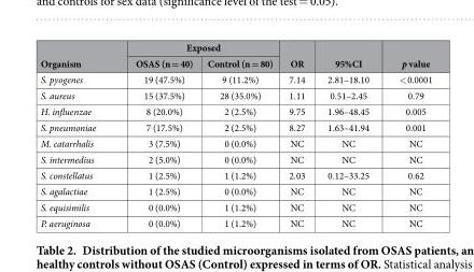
<table><thead><tr><td rowspan="2">Organism</td><td colspan="2">Exposed</td><td rowspan="2">OR</td><td rowspan="2">95%CI</td><td rowspan="2">p value</td></tr><tr><td>OSAS (n = 40)</td><td>Control (n = 80)</td></tr></thead><tbody><tr><td>S. pyogenes</td><td>19 (47.5%)</td><td>9 (11.2%)</td><td>7.14</td><td>2.81–18.10</td><td>&lt; 0.0001</td></tr><tr><td>S. aureus</td><td>15 (37.5%)</td><td>28 (35.0%)</td><td>1.11</td><td>0.51–2.45</td><td>0.79</td></tr><tr><td>H. influenzae</td><td>8 (20.0%)</td><td>2 (2.5%)</td><td>9.75</td><td>1.96–48.45</td><td>0.005</td></tr><tr><td>S. pneumoniae</td><td>7 (17.5%)</td><td>2 (2.5%)</td><td>8.27</td><td>1.63–41.94</td><td>0.001</td></tr><tr><td>M. catarrhalis</td><td>3 (7.5%)</td><td>0 (0.0%)</td><td>NC</td><td>NC</td><td>NC</td></tr><tr><td>S. intermedius</td><td>2 (5.0%)</td><td>0 (0.0%)</td><td>NC</td><td>NC</td><td>NC</td></tr><tr><td>S. constellatus</td><td>1 (2.5%)</td><td>1 (1.2%)</td><td>2.03</td><td>0.12–33.25</td><td>0.62</td></tr><tr><td>S. agalactiae</td><td>1 (2.5%)</td><td>0 (0.0%)</td><td>NC</td><td>NC</td><td>NC</td></tr><tr><td>S. equisimilis</td><td>0 (0.0%)</td><td>1 (1.2%)</td><td>NC</td><td>NC</td><td>NC</td></tr><tr><td>P. aeruginosa</td><td>0 (0.0%)</td><td>1 (1.2%)</td><td>NC</td><td>NC</td><td>NC</td></tr></tbody></table>